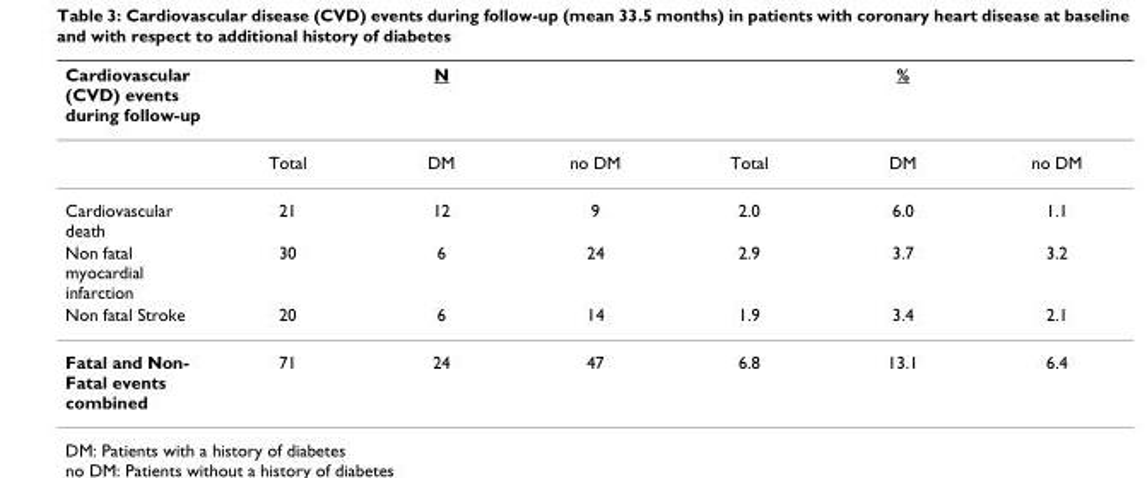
<table><thead><tr><td rowspan="2">Cardiovascular (CVD) events during follow-up</td><td colspan="3">N</td><td colspan="3">%</td></tr><tr><td>Total</td><td>DM</td><td>no DM</td><td>Total</td><td>DM</td><td>no DM</td></tr></thead><tbody><tr><td>Cardiovascular death</td><td>21</td><td>12</td><td>9</td><td>2.0</td><td>6.0</td><td>1.1</td></tr><tr><td>Non fatal myocardial infarction</td><td>30</td><td>6</td><td>24</td><td>2.9</td><td>3.7</td><td>3.2</td></tr><tr><td>Non fatal Stroke</td><td>20</td><td>6</td><td>14</td><td>1.9</td><td>3.4</td><td>2.1</td></tr><tr><td>Fatal and Non- Fatal events combined</td><td>71</td><td>24</td><td>47</td><td>6.8</td><td>13.1</td><td>6.4</td></tr></tbody></table>